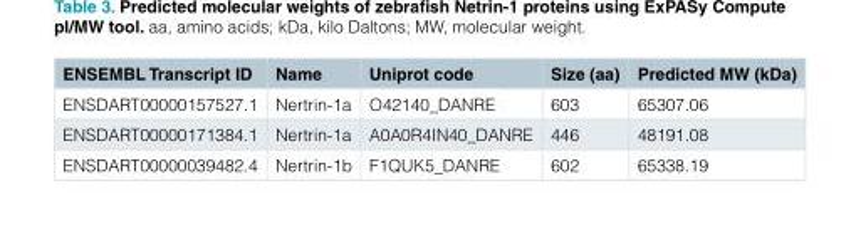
<table><thead><tr><td>ENSEMBL Transcript ID</td><td>Name</td><td>Uniprot code</td><td>Size (aa)</td><td>Predicted MW (kDa)</td></tr></thead><tbody><tr><td>ENSDART00000157527.1</td><td>Nertrin-1a</td><td>O42140_DANRE</td><td>603</td><td>65307.06</td></tr><tr><td>ENSDART00000171384.1</td><td>Nertrin-1a</td><td>A0A0R4IN40_DANRE</td><td>446</td><td>48191.08</td></tr><tr><td>ENSDART00000039482.4</td><td>Nertrin-1b</td><td>F1QUK5_DANRE</td><td>602</td><td>65338.19</td></tr></tbody></table>